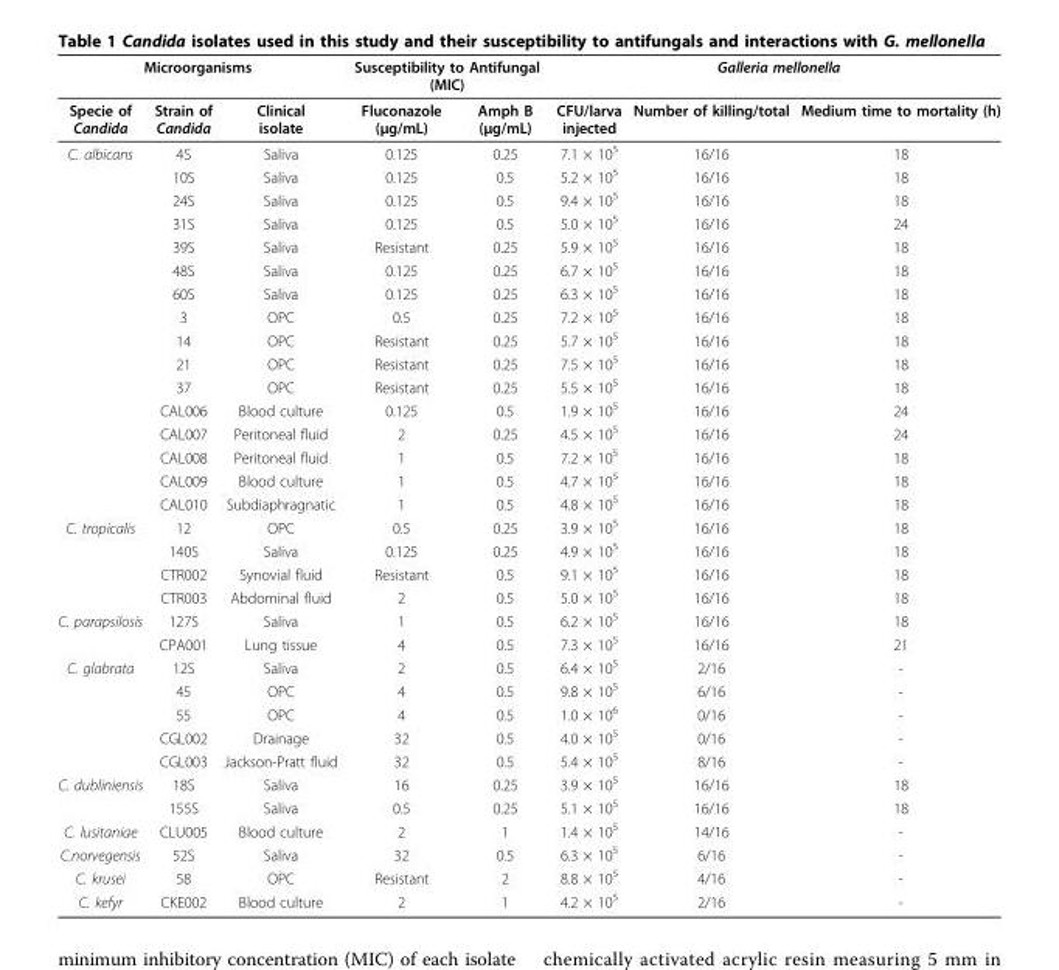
<table><thead><tr><td colspan="3">Microorganisms</td><td colspan="2">Susceptibility to Antifungal (MIC)</td><td colspan="3">Galleria mellonella</td></tr><tr><td>Specie of Candida</td><td>Strain of Candida</td><td>Clinical isolate</td><td>Fluconazole (μg/mL)</td><td>Amph B (μg/mL)</td><td>CFU/larva injected</td><td>Number of killing/total</td><td>Medium time to mortality (h)</td></tr></thead><tbody><tr><td rowspan="16">C. albicans</td><td>4S</td><td>Saliva</td><td>0.125</td><td>0.25</td><td>7.1 × 10<sup>5</sup></td><td>16/16</td><td>18</td></tr><tr><td>10S</td><td>Saliva</td><td>0.125</td><td>0.5</td><td>5.2 × 10<sup>5</sup></td><td>16/16</td><td>18</td></tr><tr><td>24S</td><td>Saliva</td><td>0.125</td><td>0.5</td><td>9.4 × 10<sup>5</sup></td><td>16/16</td><td>18</td></tr><tr><td>31S</td><td>Saliva</td><td>0.125</td><td>0.5</td><td>5.0 × 10<sup>5</sup></td><td>16/16</td><td>24</td></tr><tr><td>39S</td><td>Saliva</td><td>Resistant</td><td>0.25</td><td>5.9 × 10<sup>5</sup></td><td>16/16</td><td>18</td></tr><tr><td>48S</td><td>Saliva</td><td>0.125</td><td>0.25</td><td>6.7 × 10<sup>5</sup></td><td>16/16</td><td>18</td></tr><tr><td>60S</td><td>Saliva</td><td>0.125</td><td>0.25</td><td>6.3 × 10<sup>5</sup></td><td>16/16</td><td>18</td></tr><tr><td>3</td><td>OPC</td><td>0.5</td><td>0.25</td><td>7.2 × 10<sup>5</sup></td><td>16/16</td><td>18</td></tr><tr><td>14</td><td>OPC</td><td>Resistant</td><td>0.25</td><td>5.7 × 10<sup>5</sup></td><td>16/16</td><td>18</td></tr><tr><td>21</td><td>OPC</td><td>Resistant</td><td>0.25</td><td>7.5 × 10<sup>5</sup></td><td>16/16</td><td>18</td></tr><tr><td>37</td><td>OPC</td><td>Resistant</td><td>0.25</td><td>5.5 × 10<sup>5</sup></td><td>16/16</td><td>18</td></tr><tr><td>CAL006</td><td>Blood culture</td><td>0.125</td><td>0.5</td><td>1.9 × 10<sup>5</sup></td><td>16/16</td><td>24</td></tr><tr><td>CAL007</td><td>Peritoneal fluid</td><td>2</td><td>0.25</td><td>4.5 × 10<sup>5</sup></td><td>16/16</td><td>24</td></tr><tr><td>CAL008</td><td>Peritoneal fluid</td><td>1</td><td>0.5</td><td>7.2 × 10<sup>5</sup></td><td>16/16</td><td>18</td></tr><tr><td>CAL009</td><td>Blood culture</td><td>1</td><td>0.5</td><td>4.7 × 10<sup>5</sup></td><td>16/16</td><td>18</td></tr><tr><td>CAL010</td><td>Subdiaphragnatic</td><td>1</td><td>0.5</td><td>4.8 × 10<sup>5</sup></td><td>16/16</td><td>18</td></tr><tr><td rowspan="4">C. tropicalis</td><td>12</td><td>OPC</td><td>0.5</td><td>0.25</td><td>3.9 × 10<sup>5</sup></td><td>16/16</td><td>18</td></tr><tr><td>140S</td><td>Saliva</td><td>0.125</td><td>0.25</td><td>4.9 × 10<sup>5</sup></td><td>16/16</td><td>18</td></tr><tr><td>CTR002</td><td>Synovial fluid</td><td>Resistant</td><td>0.5</td><td>9.1 × 10<sup>5</sup></td><td>16/16</td><td>18</td></tr><tr><td>CTR003</td><td>Abdominal fluid</td><td>2</td><td>0.5</td><td>5.0 × 10<sup>5</sup></td><td>16/16</td><td>18</td></tr><tr><td rowspan="2">C. parapsilosis</td><td>127S</td><td>Saliva</td><td>1</td><td>0.5</td><td>6.2 × 10<sup>5</sup></td><td>16/16</td><td>18</td></tr><tr><td>CPA001</td><td>Lung tissue</td><td>4</td><td>0.5</td><td>7.3 × 10<sup>5</sup></td><td>16/16</td><td>21</td></tr><tr><td rowspan="5">C. glabrata</td><td>12S</td><td>Saliva</td><td>2</td><td>0.5</td><td>6.4 × 10<sup>5</sup></td><td>2/16</td><td>-</td></tr><tr><td>45</td><td>OPC</td><td>4</td><td>0.5</td><td>9.8 × 10<sup>5</sup></td><td>6/16</td><td>-</td></tr><tr><td>55</td><td>OPC</td><td>4</td><td>0.5</td><td>1.0 × 10<sup>6</sup></td><td>0/16</td><td>-</td></tr><tr><td>CGL002</td><td>Drainage</td><td>32</td><td>0.5</td><td>4.0 × 10<sup>5</sup></td><td>0/16</td><td>-</td></tr><tr><td>CGL003</td><td>Jackson-Pratt fluid</td><td>32</td><td>0.5</td><td>5.4 × 10<sup>5</sup></td><td>8/16</td><td>-</td></tr><tr><td rowspan="2">C. dubliniensis</td><td>18S</td><td>Saliva</td><td>16</td><td>0.25</td><td>3.9 × 10<sup>5</sup></td><td>16/16</td><td>18</td></tr><tr><td>155S</td><td>Saliva</td><td>0.5</td><td>0.25</td><td>5.1 × 10<sup>5</sup></td><td>16/16</td><td>18</td></tr><tr><td>C. lusitaniae</td><td>CLU005</td><td>Blood culture</td><td>2</td><td>1</td><td>1.4 × 10<sup>5</sup></td><td>14/16</td><td>-</td></tr><tr><td>C.norvegensis</td><td>52S</td><td>Saliva</td><td>32</td><td>0.5</td><td>6.3 × 10<sup>5</sup></td><td>6/16</td><td>-</td></tr><tr><td>C. krusei</td><td>58</td><td>OPC</td><td>Resistant</td><td>2</td><td>8.8 × 10<sup>5</sup></td><td>4/16</td><td>-</td></tr><tr><td>C. kefyr</td><td>CKE002</td><td>Blood culture</td><td>2</td><td>1</td><td>4.2 × 10<sup>5</sup></td><td>2/16</td><td>-</td></tr></tbody></table>